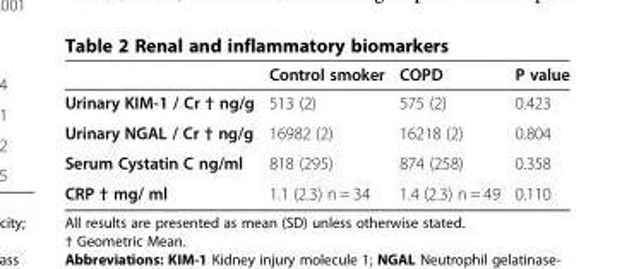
<table><thead><tr><td></td><td>Control smoker</td><td>COPD</td><td>P value</td></tr></thead><tbody><tr><td>Urinary KIM-1 / Cr † ng/g</td><td>513 (2)</td><td>575 (2)</td><td>0.423</td></tr><tr><td>Urinary NGAL / Cr † ng/g</td><td>16982 (2)</td><td>16218 (2)</td><td>0.804</td></tr><tr><td>Serum Cystatin C ng/ml</td><td>818 (295)</td><td>874 (258)</td><td>0.358</td></tr><tr><td>CRP † mg/ ml</td><td>1.1 (2.3) n = 34</td><td>1.4 (2.3) n = 49</td><td>0.110</td></tr></tbody></table>